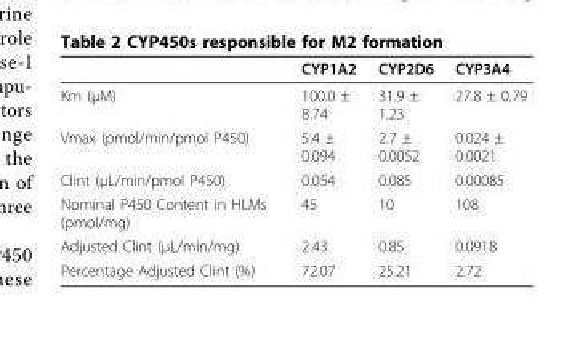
<table><thead><tr><td></td><td>CYP1A2</td><td>CYP2D6</td><td>CYP3A4</td></tr></thead><tbody><tr><td>Km (μM)</td><td>100.0 ± 8.74</td><td>31.9 ± 1.23</td><td>27.8 ± 0.79</td></tr><tr><td>Vmax (pmol/min/pmol P450)</td><td>5.4 ± 0.094</td><td>2.7 ± 0.0052</td><td>0.024 ± 0.0021</td></tr><tr><td>Clint (μL/min/pmol P450)</td><td>0.054</td><td>0.085</td><td>0.00085</td></tr><tr><td>Nominal P450 Content in HLMs (pmol/mg)</td><td>45</td><td>10</td><td>108</td></tr><tr><td>Adjusted Clint (μL/min/mg)</td><td>2.43</td><td>0.85</td><td>0.0918</td></tr><tr><td>Percentage Adjusted Clint (%)</td><td>72.07</td><td>25.21</td><td>2.72</td></tr></tbody></table>